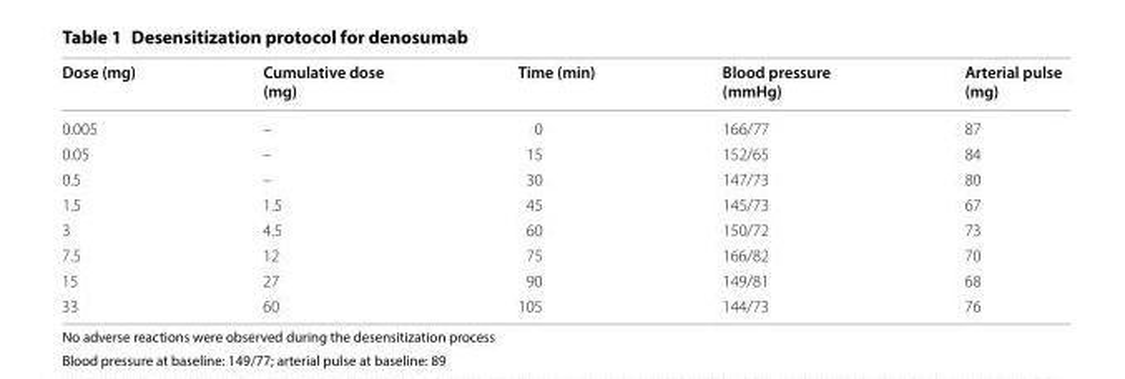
<table><thead><tr><td>Dose (mg)</td><td>Cumulative dose (mg)</td><td>Time (min)</td><td>Blood pressure (mmHg)</td><td>Arterial pulse (mg)</td></tr></thead><tbody><tr><td>0.005</td><td>–</td><td>0</td><td>166/77</td><td>87</td></tr><tr><td>0.05</td><td>–</td><td>15</td><td>152/65</td><td>84</td></tr><tr><td>0.5</td><td>–</td><td>30</td><td>147/73</td><td>80</td></tr><tr><td>1.5</td><td>1.5</td><td>45</td><td>145/73</td><td>67</td></tr><tr><td>3</td><td>4.5</td><td>60</td><td>150/72</td><td>73</td></tr><tr><td>7.5</td><td>12</td><td>75</td><td>166/82</td><td>70</td></tr><tr><td>15</td><td>27</td><td>90</td><td>149/81</td><td>68</td></tr><tr><td>33</td><td>60</td><td>105</td><td>144/73</td><td>76</td></tr></tbody></table>